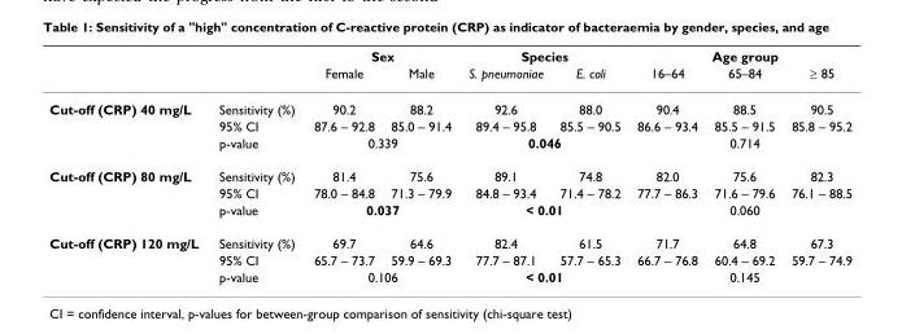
<table><thead><tr><td rowspan="2"></td><td rowspan="2"></td><td colspan="2">Sex</td><td colspan="2">Species</td><td colspan="3">Age group</td></tr><tr><td>Female</td><td>Male</td><td>S. pneumoniae</td><td>E. coli</td><td>16–64</td><td>65–84</td><td>≥ 85</td></tr></thead><tbody><tr><td rowspan="3">Cut-off (CRP) 40 mg/L</td><td>Sensitivity (%)</td><td>90.2</td><td>88.2</td><td>92.6</td><td>88.0</td><td>90.4</td><td>88.5</td><td>90.5</td></tr><tr><td>95% CI</td><td>87.6 – 92.8</td><td>85.0 – 91.4</td><td>89.4 – 95.8</td><td>85.5 – 90.5</td><td>86.6 – 93.4</td><td>85.5 – 91.5</td><td>85.8 – 95.2</td></tr><tr><td>p-value</td><td colspan="2">0.339</td><td colspan="2">0.046</td><td colspan="3">0.714</td></tr><tr><td rowspan="3">Cut-off (CRP) 80 mg/L</td><td>Sensitivity (%)</td><td>81.4</td><td>75.6</td><td>89.1</td><td>74.8</td><td>82.0</td><td>75.6</td><td>82.3</td></tr><tr><td>95% CI</td><td>78.0 – 84.8</td><td>71.3 – 79.9</td><td>84.8 – 93.4</td><td>71.4 – 78.2</td><td>77.7 – 86.3</td><td>71.6 – 79.6</td><td>76.1 – 88.5</td></tr><tr><td>p-value</td><td colspan="2">0.037</td><td colspan="2">&lt; 0.01</td><td colspan="3">0.060</td></tr><tr><td rowspan="3">Cut-off (CRP) 120 mg/L</td><td>Sensitivity (%)</td><td>69.7</td><td>64.6</td><td>82.4</td><td>61.5</td><td>71.7</td><td>64.8</td><td>67.3</td></tr><tr><td>95% CI</td><td>65.7 – 73.7</td><td>59.9 – 69.3</td><td>77.7 – 87.1</td><td>57.7 – 65.3</td><td>66.7 – 76.8</td><td>60.4 – 69.2</td><td>59.7 – 74.9</td></tr><tr><td>p-value</td><td colspan="2">0.106</td><td colspan="2">&lt; 0.01</td><td colspan="3">0.145</td></tr></tbody></table>